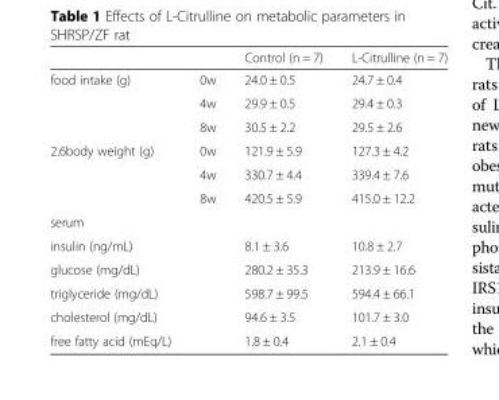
<table><thead><tr><td></td><td></td><td>Control (n = 7)</td><td>L-Citrulline (n = 7)</td></tr></thead><tbody><tr><td rowspan="3">food intake (g)</td><td>0w</td><td>24.0 ± 0.5</td><td>24.7 ± 0.4</td></tr><tr><td>4w</td><td>29.9 ± 0.5</td><td>29.4 ± 0.3</td></tr><tr><td>8w</td><td>30.5 ± 2.2</td><td>29.5 ± 2.6</td></tr><tr><td rowspan="3">2.6body weight (g)</td><td>0w</td><td>121.9 ± 5.9</td><td>127.3 ± 4.2</td></tr><tr><td>4w</td><td>330.7 ± 4.4</td><td>339.4 ± 7.6</td></tr><tr><td>8w</td><td>420.5 ± 5.9</td><td>415.0 ± 12.2</td></tr><tr><td colspan="4">serum</td></tr><tr><td>insulin (ng/mL)</td><td></td><td>8.1 ± 3.6</td><td>10.8 ± 2.7</td></tr><tr><td>glucose (mg/dL)</td><td></td><td>280.2 ± 35.3</td><td>213.9 ± 16.6</td></tr><tr><td>triglyceride (mg/dL)</td><td></td><td>598.7 ± 99.5</td><td>594.4 ± 66.1</td></tr><tr><td>cholesterol (mg/dL)</td><td></td><td>94.6 ± 3.5</td><td>101.7 ± 3.0</td></tr><tr><td>free fatty acid (mEq/L)</td><td></td><td>1.8 ± 0.4</td><td>2.1 ± 0.4</td></tr></tbody></table>